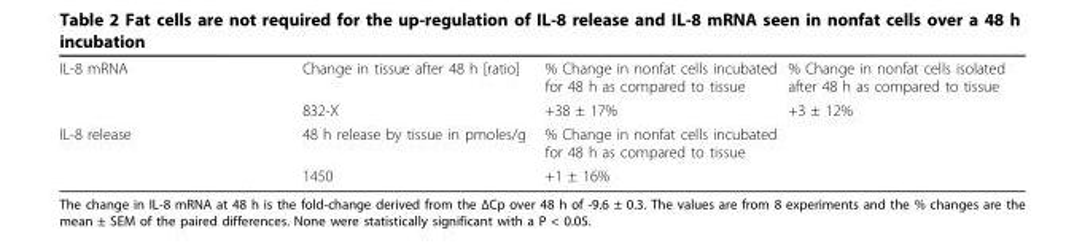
<table><tbody><tr><td rowspan="2">IL-8 mRNA</td><td>Change in tissue after 48 h [ratio]</td><td>% Change in nonfat cells incubated for 48 h as compared to tissue</td><td>% Change in nonfat cells isolated after 48 h as compared to tissue</td></tr><tr><td>832-X</td><td>+38 ± 17%</td><td>+3 ± 12%</td></tr><tr><td rowspan="2">IL-8 release</td><td>48 h release by tissue in pmoles/g</td><td>% Change in nonfat cells incubated for 48 h as compared to tissue</td><td></td></tr><tr><td>1450</td><td>+1 ± 16%</td><td></td></tr></tbody></table>